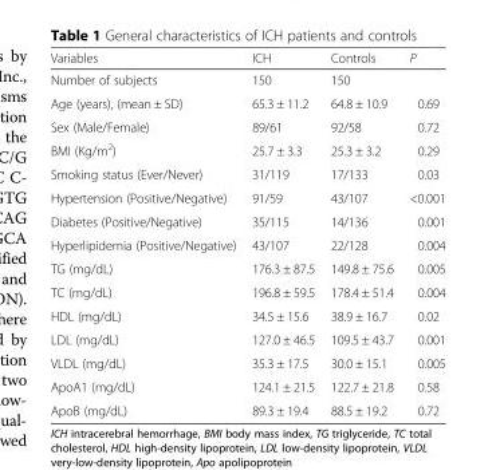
<table><thead><tr><td>Variables</td><td>ICH</td><td>Controls</td><td>P</td></tr></thead><tbody><tr><td>Number of subjects</td><td>150</td><td>150</td><td></td></tr><tr><td>Age (years), (mean ± SD)</td><td>65.3 ± 11.2</td><td>64.8 ± 10.9</td><td>0.69</td></tr><tr><td>Sex (Male/Female)</td><td>89/61</td><td>92/58</td><td>0.72</td></tr><tr><td>BMI (Kg/m<sup>2</sup>)</td><td>25.7 ± 3.3</td><td>25.3 ± 3.2</td><td>0.29</td></tr><tr><td>Smoking status (Ever/Never)</td><td>31/119</td><td>17/133</td><td>0.03</td></tr><tr><td>Hypertension (Positive/Negative)</td><td>91/59</td><td>43/107</td><td>&lt;0.001</td></tr><tr><td>Diabetes (Positive/Negative)</td><td>35/115</td><td>14/136</td><td>0.001</td></tr><tr><td>Hyperlipidemia (Positive/Negative)</td><td>43/107</td><td>22/128</td><td>0.004</td></tr><tr><td>TG (mg/dL)</td><td>176.3 ± 87.5</td><td>149.8 ± 75.6</td><td>0.005</td></tr><tr><td>TC (mg/dL)</td><td>196.8 ± 59.5</td><td>178.4 ± 51.4</td><td>0.004</td></tr><tr><td>HDL (mg/dL)</td><td>34.5 ± 15.6</td><td>38.9 ± 16.7</td><td>0.02</td></tr><tr><td>LDL (mg/dL)</td><td>127.0 ± 46.5</td><td>109.5 ± 43.7</td><td>0.001</td></tr><tr><td>VLDL (mg/dL)</td><td>35.3 ± 17.5</td><td>30.0 ± 15.1</td><td>0.005</td></tr><tr><td>ApoA1 (mg/dL)</td><td>124.1 ± 21.5</td><td>122.7 ± 21.8</td><td>0.58</td></tr><tr><td>ApoB (mg/dL)</td><td>89.3 ± 19.4</td><td>88.5 ± 19.2</td><td>0.72</td></tr></tbody></table>